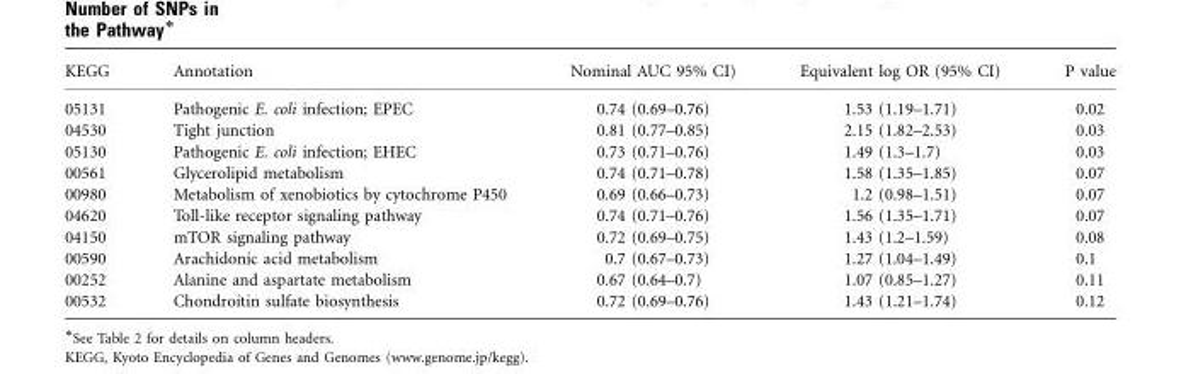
<table><thead><tr><td>KEGG</td><td>Annotation</td><td>Nominal AUC 95% CI)</td><td>Equivalent log OR (95% CI)</td><td>P value</td></tr></thead><tbody><tr><td>05131</td><td>Pathogenic E. coli infection; EPEC</td><td>0.74 (0.69–0.76)</td><td>1.53 (1.19–1.71)</td><td>0.02</td></tr><tr><td>04530</td><td>Tight junction</td><td>0.81 (0.77–0.85)</td><td>2.15 (1.82–2.53)</td><td>0.03</td></tr><tr><td>05130</td><td>Pathogenic E. coli infection; EHEC</td><td>0.73 (0.71–0.76)</td><td>1.49 (1.3–1.7)</td><td>0.03</td></tr><tr><td>00561</td><td>Glycerolipid metabolism</td><td>0.74 (0.71–0.78)</td><td>1.58 (1.35–1.85)</td><td>0.07</td></tr><tr><td>00980</td><td>Metabolism of xenobiotics by cytochrome P450</td><td>0.69 (0.66–0.73)</td><td>1.2 (0.98–1.51)</td><td>0.07</td></tr><tr><td>04620</td><td>Toll-like receptor signaling pathway</td><td>0.74 (0.71–0.76)</td><td>1.56 (1.35–1.71)</td><td>0.07</td></tr><tr><td>04150</td><td>mTOR signaling pathway</td><td>0.72 (0.69–0.75)</td><td>1.43 (1.2–1.59)</td><td>0.08</td></tr><tr><td>00590</td><td>Arachidonic acid metabolism</td><td>0.7 (0.67–0.73)</td><td>1.27 (1.04–1.49)</td><td>0.1</td></tr><tr><td>00252</td><td>Alanine and aspartate metabolism</td><td>0.67 (0.64–0.7)</td><td>1.07 (0.85–1.27)</td><td>0.11</td></tr><tr><td>00532</td><td>Chondroitin sulfate biosynthesis</td><td>0.72 (0.69–0.76)</td><td>1.43 (1.21–1.74)</td><td>0.12</td></tr></tbody></table>